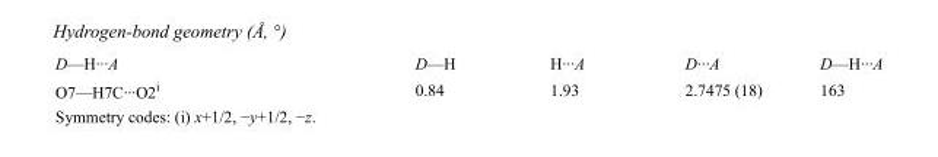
<table><tbody><tr><td>D—H···A</td><td>D—H</td><td>H···A</td><td>D···A</td><td>D—H···A</td></tr><tr><td>O7—H7C···O2<sup>i</sup></td><td>0.84</td><td>1.93</td><td>2.7475 (18)</td><td>163</td></tr></tbody></table>